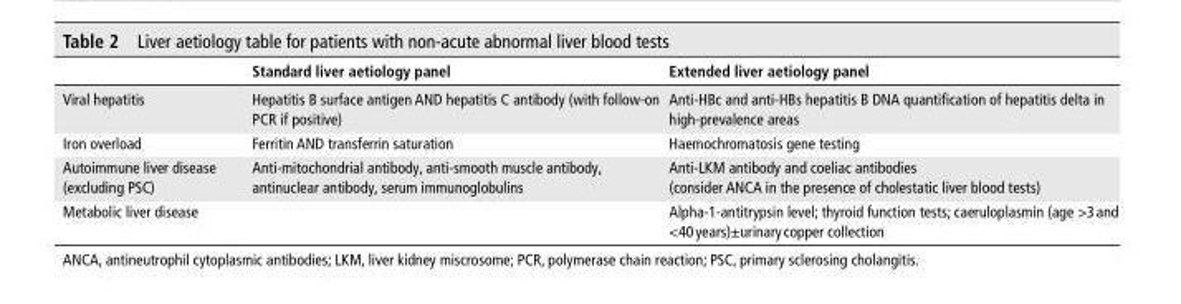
<table><thead><tr><td></td><td>standard liver aetiology panel</td><td>extended liver aetiology panel</td></tr></thead><tbody><tr><td>Viral hepatitis</td><td>Hepatitis B surface antigen AND hepatitis C antibody (with follow-on PCR if positive)</td><td>Anti-HBc and anti-HBs hepatitis B DNA quantification of hepatitis delta in high-prevalence areas</td></tr><tr><td>Iron overload</td><td>Ferritin AND transferrin saturation</td><td>Haemochromatosis gene testing</td></tr><tr><td>Autoimmune liver disease (excluding PSC)</td><td>Anti-mitochondrial antibody, anti-smooth muscle antibody, antinuclear antibody, serum immunoglobulins</td><td>Anti-LKM antibody and coeliac antibodies (consider ANCA in the presence of cholestatic liver blood tests)</td></tr><tr><td>Metabolic liver disease</td><td></td><td>Alpha-1-antitrypsin level; thyroid function tests; caeruloplasmin (age &gt;3 and &lt;40 years)±urinary copper collection</td></tr></tbody></table>